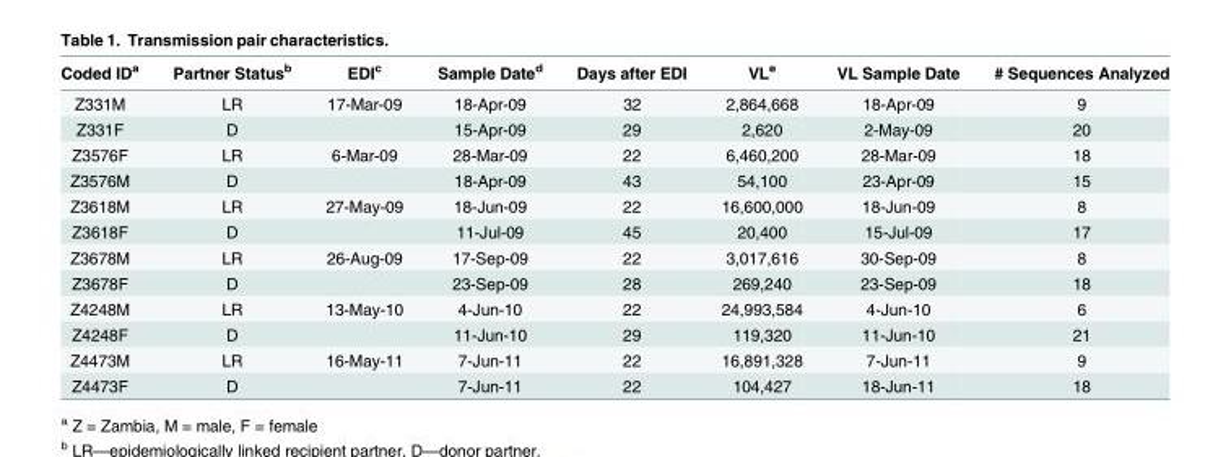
<table><thead><tr><td>Coded ID<sup>a</sup></td><td>Partner Status<sup>b</sup></td><td>EDI<sup>c</sup></td><td>Sample Date<sup>d</sup></td><td>Days after EDI</td><td>VL<sup>e</sup></td><td>VL Sample Date</td><td># Sequences Analyzed</td></tr></thead><tbody><tr><td>Z331M</td><td>LR</td><td>17-Mar-09</td><td>18-Apr-09</td><td>32</td><td>2,864,668</td><td>18-Apr-09</td><td>9</td></tr><tr><td>Z331F</td><td>D</td><td></td><td>15-Apr-09</td><td>29</td><td>2,620</td><td>2-May-09</td><td>20</td></tr><tr><td>Z3576F</td><td>LR</td><td>6-Mar-09</td><td>28-Mar-09</td><td>22</td><td>6,460,200</td><td>28-Mar-09</td><td>18</td></tr><tr><td>Z3576M</td><td>D</td><td></td><td>18-Apr-09</td><td>43</td><td>54,100</td><td>23-Apr-09</td><td>15</td></tr><tr><td>Z3618M</td><td>LR</td><td>27-May-09</td><td>18-Jun-09</td><td>22</td><td>16,600,000</td><td>18-Jun-09</td><td>8</td></tr><tr><td>Z3618F</td><td>D</td><td></td><td>11-Jul-09</td><td>45</td><td>20,400</td><td>15-Jul-09</td><td>17</td></tr><tr><td>Z3678M</td><td>LR</td><td>26-Aug-09</td><td>17-Sep-09</td><td>22</td><td>3,017,616</td><td>30-Sep-09</td><td>8</td></tr><tr><td>Z3678F</td><td>D</td><td></td><td>23-Sep-09</td><td>28</td><td>269,240</td><td>23-Sep-09</td><td>18</td></tr><tr><td>Z4248M</td><td>LR</td><td>13-May-10</td><td>4-Jun-10</td><td>22</td><td>24,993,584</td><td>4-Jun-10</td><td>6</td></tr><tr><td>Z4248F</td><td>D</td><td></td><td>11-Jun-10</td><td>29</td><td>119,320</td><td>11-Jun-10</td><td>21</td></tr><tr><td>Z4473M</td><td>LR</td><td>16-May-11</td><td>7-Jun-11</td><td>22</td><td>16,891,328</td><td>7-Jun-11</td><td>9</td></tr><tr><td>Z4473F</td><td>D</td><td></td><td>7-Jun-11</td><td>22</td><td>104,427</td><td>18-Jun-11</td><td>18</td></tr></tbody></table>